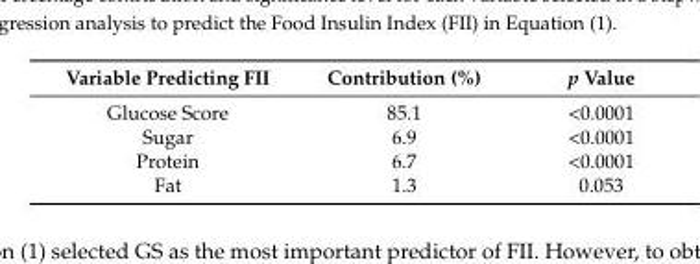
<table><thead><tr><td>Variable Predicting FII</td><td>Contribution (%)</td><td>p Value</td></tr></thead><tbody><tr><td>Glucose Score</td><td>85.1</td><td>&lt;0.0001</td></tr><tr><td>Sugar</td><td>6.9</td><td>&lt;0.0001</td></tr><tr><td>Protein</td><td>6.7</td><td>&lt;0.0001</td></tr><tr><td>Fat</td><td>1.3</td><td>0.053</td></tr></tbody></table>